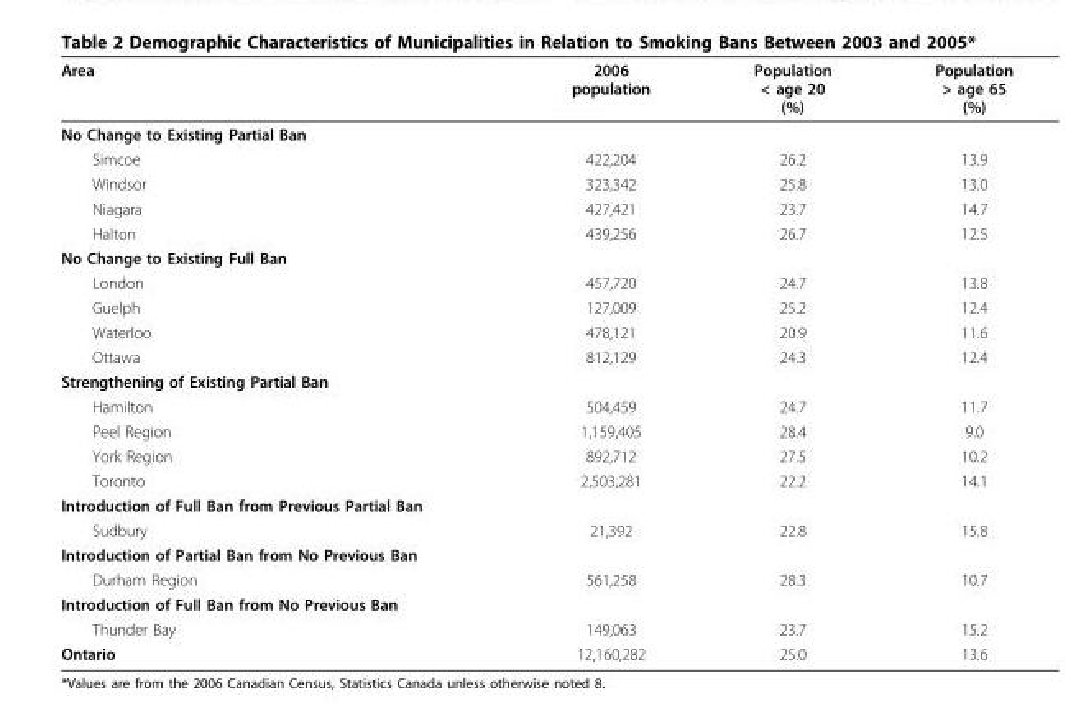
<table><thead><tr><td>Area</td><td>2006 population</td><td>Population &lt; age 20 (%)</td><td>Population &gt; age 65 (%)</td></tr></thead><tbody><tr><td colspan="4">No Change to Existing Partial Ban</td></tr><tr><td>Simcoe</td><td>422,204</td><td>26.2</td><td>13.9</td></tr><tr><td>Windsor</td><td>323,342</td><td>25.8</td><td>13.0</td></tr><tr><td>Niagara</td><td>427,421</td><td>23.7</td><td>14.7</td></tr><tr><td>Halton</td><td>439,256</td><td>26.7</td><td>12.5</td></tr><tr><td colspan="4">No Change to Existing Full Ban</td></tr><tr><td>London</td><td>457,720</td><td>24.7</td><td>13.8</td></tr><tr><td>Guelph</td><td>127,009</td><td>25.2</td><td>12.4</td></tr><tr><td>Waterloo</td><td>478,121</td><td>20.9</td><td>11.6</td></tr><tr><td>Ottawa</td><td>812,129</td><td>24.3</td><td>12.4</td></tr><tr><td colspan="4">Strengthening of Existing Partial Ban</td></tr><tr><td>Hamilton</td><td>504,459</td><td>24.7</td><td>11.7</td></tr><tr><td>Peel Region</td><td>1,159,405</td><td>28.4</td><td>9.0</td></tr><tr><td>York Region</td><td>892,712</td><td>27.5</td><td>10.2</td></tr><tr><td>Toronto</td><td>2,503,281</td><td>22.2</td><td>14.1</td></tr><tr><td colspan="4">Introduction of Full Ban from Previous Partial Ban</td></tr><tr><td>Sudbury</td><td>21,392</td><td>22.8</td><td>15.8</td></tr><tr><td colspan="4">Introduction of Partial Ban from No Previous Ban</td></tr><tr><td>Durham Region</td><td>561,258</td><td>28.3</td><td>10.7</td></tr><tr><td colspan="4">Introduction of Full Ban from No Previous Ban</td></tr><tr><td>Thunder Bay</td><td>149,063</td><td>23.7</td><td>15.2</td></tr><tr><td>Ontario</td><td>12,160,282</td><td>25.0</td><td>13.6</td></tr></tbody></table>